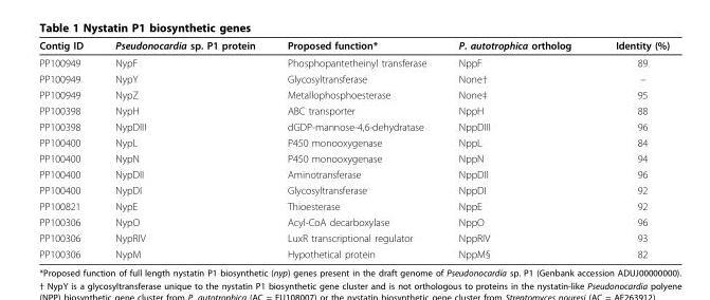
<table><thead><tr><td>Contig ID</td><td>Pseudonocardia sp. P1 protein</td><td>Proposed function*</td><td>P. autotrophica ortholog</td><td>Identity (%)</td></tr></thead><tbody><tr><td>PP100949</td><td>NypF</td><td>Phosphopantetheinyl transferase</td><td>NppF</td><td>89</td></tr><tr><td>PP100949</td><td>NypY</td><td>Glycosyltransferase</td><td>None†</td><td>–</td></tr><tr><td>PP100949</td><td>NypZ</td><td>Metallophosphoesterase</td><td>None‡</td><td>95</td></tr><tr><td>PP100398</td><td>NypH</td><td>ABC transporter</td><td>NppH</td><td>88</td></tr><tr><td>PP100398</td><td>NypDIII</td><td>dGDP-mannose-4,6-dehydratase</td><td>NppDIII</td><td>96</td></tr><tr><td>PP100400</td><td>NypL</td><td>P450 monooxygenase</td><td>NppL</td><td>84</td></tr><tr><td>PP100400</td><td>NypN</td><td>P450 monooxygenase</td><td>NppN</td><td>94</td></tr><tr><td>PP100400</td><td>NypDII</td><td>Aminotransferase</td><td>NppDII</td><td>96</td></tr><tr><td>PP100400</td><td>NypDI</td><td>Glycosyltransferase</td><td>NppDI</td><td>92</td></tr><tr><td>PP100821</td><td>NypE</td><td>Thioesterase</td><td>NppE</td><td>92</td></tr><tr><td>PP100306</td><td>NypO</td><td>Acyl-CoA decarboxylase</td><td>NppO</td><td>96</td></tr><tr><td>PP100306</td><td>NypRIV</td><td>LuxR transcriptional regulator</td><td>NppRIV</td><td>93</td></tr><tr><td>PP100306</td><td>NypM</td><td>Hypothetical protein</td><td>NppM§</td><td>82</td></tr></tbody></table>